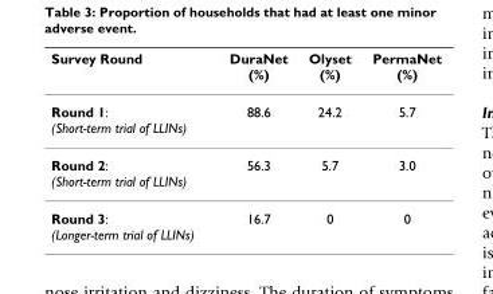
<table><thead><tr><td>Survey Round</td><td>DuraNet (%)</td><td>Olyset (%)</td><td>PermaNet (%)</td></tr></thead><tbody><tr><td>Round 1: (Short-term trial of LLINs)</td><td>88.6</td><td>24.2</td><td>5.7</td></tr><tr><td>Round 2: (Short-term trial of LLINs)</td><td>56.3</td><td>5.7</td><td>3.0</td></tr><tr><td>Round 3: (Longer-term trial of LLINs)</td><td>16.7</td><td>0</td><td>0</td></tr></tbody></table>